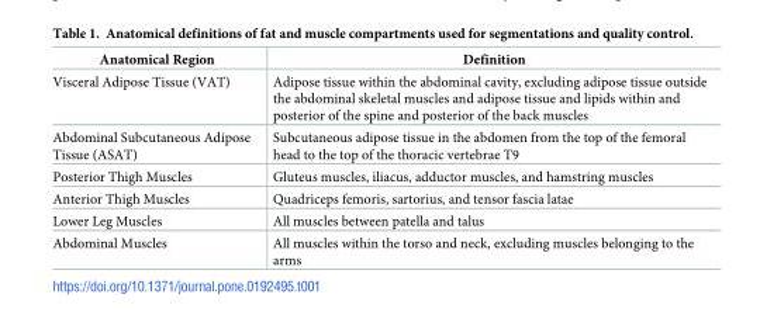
<table><thead><tr><td>Anatomical Region</td><td>Definition</td></tr></thead><tbody><tr><td>Visceral Adipose Tissue (VAT)</td><td>Adipose tissue within the abdominal cavity, excluding adipose tissue outside the abdominal skeletal muscles and adipose tissue and lipids within and posterior of the spine and posterior of the back muscles</td></tr><tr><td>Abdominal Subcutaneous Adipose Tissue (ASAT)</td><td>Subcutaneous adipose tissue in the abdomen from the top of the femoral head to the top of the thoracic vertebrae T9</td></tr><tr><td>Posterior Thigh Muscles</td><td>Gluteus muscles, iliacus, adductor muscles, and hamstring muscles</td></tr><tr><td>Anterior Thigh Muscles</td><td>Quadriceps femoris, sartorius, and tensor fascia latae</td></tr><tr><td>Lower Leg Muscles</td><td>All muscles between patella and talus</td></tr><tr><td>Abdominal Muscles</td><td>All muscles within the torso and neck, excluding muscles belonging to the arms</td></tr></tbody></table>